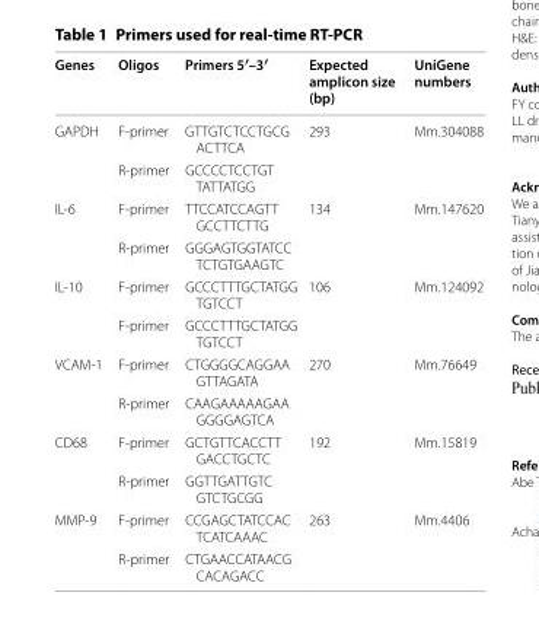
<table><thead><tr><td>Genes</td><td>Oligos</td><td>Primers 5′–3′</td><td>Expected amplicon size (bp)</td><td>UniGene numbers</td></tr></thead><tbody><tr><td rowspan="2">GAPDH</td><td>F-primer</td><td>GTTGTCTCCTGCG ACTTCA</td><td rowspan="2">293</td><td rowspan="2">Mm.304088</td></tr><tr><td>R-primer</td><td>GCCCCTCCTGT TATTATGG</td></tr><tr><td rowspan="2">IL-6</td><td>F-primer</td><td>TTCCATCCAGTT GCCTTCTTG</td><td rowspan="2">134</td><td rowspan="2">Mm.147620</td></tr><tr><td>R-primer</td><td>GGGAGTGGTATCC TCTGTGAAGTC</td></tr><tr><td rowspan="2">IL-10</td><td>F-primer</td><td>GCCCTTTGCTATGG TGTCCT</td><td rowspan="2">106</td><td rowspan="2">Mm.124092</td></tr><tr><td>F-primer</td><td>GCCCTTTGCTATGG TGTCCT</td></tr><tr><td rowspan="2">VCAM-1</td><td>F-primer</td><td>CTGGGGCAGGAA GTTAGATA</td><td rowspan="2">270</td><td rowspan="2">Mm.76649</td></tr><tr><td>R-primer</td><td>CAAGAAAAAGAA GGGGAGTCA</td></tr><tr><td rowspan="2">CD68</td><td>F-primer</td><td>GCTGTTCACCTT GACCTGCTC</td><td rowspan="2">192</td><td rowspan="2">Mm.15819</td></tr><tr><td>R-primer</td><td>GGTTGATTGTC GTCTGCGG</td></tr><tr><td rowspan="2">MMP-9</td><td>F-primer</td><td>CCGAGCTATCCAC TCATCAAAC</td><td rowspan="2">263</td><td rowspan="2">Mm.4406</td></tr><tr><td>R-primer</td><td>CTGAACCATAACG CACAGACC</td></tr></tbody></table>